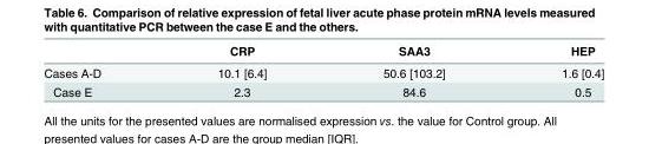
<table><thead><tr><td></td><td>CRP</td><td>SAA3</td><td>HEP</td></tr></thead><tbody><tr><td>Cases A-D</td><td>10.1 [6.4]</td><td>50.6 [103.2]</td><td>1.6 [0.4]</td></tr><tr><td>Case E</td><td>2.3</td><td>84.6</td><td>0.5</td></tr></tbody></table>